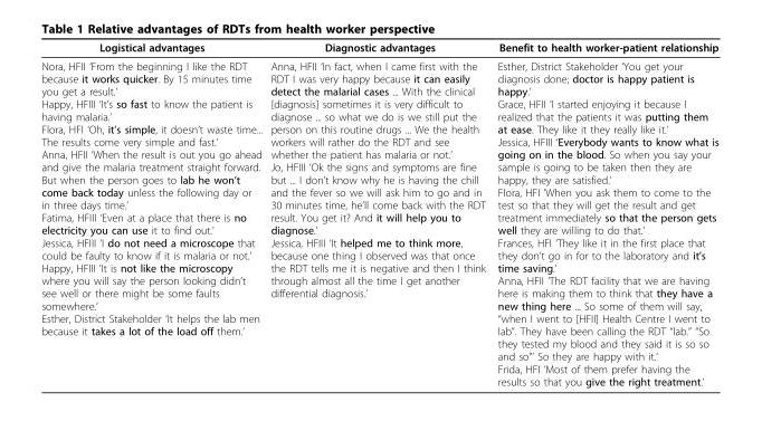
<table><thead><tr><td>Logistical advantages</td><td>Diagnostic advantages</td><td>Benefit to health worker-patient relationship</td></tr></thead><tbody><tr><td>Nora, HFII ‘From the beginning I like the RDT because it works quicker. By 15 minutes time you get a result.’ Happy, HFIII ‘It’s so fast to know the patient is having malaria.’ Flora, HFI ‘Oh, it’s simple, it doesn’t waste time... The results come very simple and fast.’ Anna, HFII ‘When the result is out you go ahead and give the malaria treatment straight forward. But when the person goes to lab he won’t come back today unless the following day or in three days time.’ Fatima, HFIII ‘Even at a place that there is no electricity you can use it to find out.’ Jessica, HFIII ‘I do not need a microscope that could be faulty to know if it is malaria or not.’ Happy, HFIII ‘It is not like the microscopy where you will say the person looking didn’t see well or there might be some faults somewhere.’ Esther, District Stakeholder ‘It helps the lab men because it takes a lot of the load off them.’</td><td>Anna, HFII ‘In fact, when I came first with the RDT I was very happy because it can easily detect the malarial cases ... With the clinical [diagnosis] sometimes it is very difficult to diagnose ... so what we do is we still put the person on this routine drugs ... We the health workers will rather do the RDT and see whether the patient has malaria or not.’ Jo, HFIII ‘Ok the signs and symptoms are fine but ... I don’t know why he is having the chill and the fever so we will ask him to go and in 30 minutes time, he’ll come back with the RDT result. You get it? And it will help you to diagnose.’ Jessica, HFIII ‘It helped me to think more, because one thing I observed was that once the RDT tells me it is negative and then I think through almost all the time I get another differential diagnosis.’</td><td>Esther, District Stakeholder ‘You get your diagnosis done; doctor is happy patient is happy.’ Grace, HFII ‘I started enjoying it because I realized that the patients it was putting them at ease. They like it they really like it.’ Jessica, HFIII ‘Everybody wants to know what is going on in the blood. So when you say your sample is going to be taken then they are happy, they are satisfied.’ Flora, HFI ‘When you ask them to come to the test so that they will get the result and get treatment immediately so that the person gets well they are willing to do that.’ Frances, HFI ‘They like it in the first place that they don’t go in for to the laboratory and it’s time saving.’ Anna, HFII ‘The RDT facility that we are having here is making them to think that they have a new thing here ... So some of them will say, “when I went to [HFII] Health Centre I went to lab”. They have been calling the RDT “lab.” “So they tested my blood and they said it is so so and so&quot;’ So they are happy with it.’ Frida, HFI ‘Most of them prefer having the results so that you give the right treatment.’</td></tr></tbody></table>